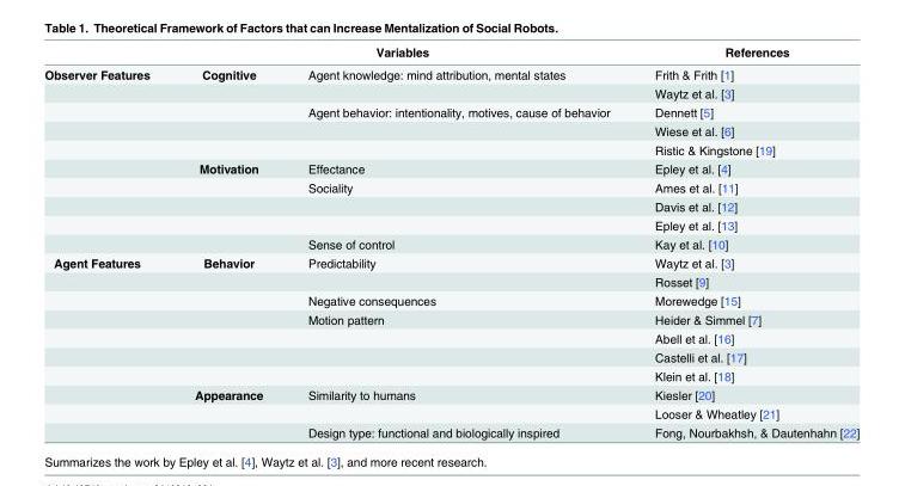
<table><thead><tr><td rowspan="2">Observer Features</td><td colspan="2">Variables</td><td rowspan="2">References Frith &amp; Frith [1]</td></tr><tr><td>Cognitive</td><td>Agent knowledge: mind attribution, mental states</td></tr></thead><tbody><tr><td></td><td></td><td></td><td>Waytz et al. [3]</td></tr><tr><td></td><td></td><td>Agent behavior: intentionality, motives, cause of behavior</td><td>Dennett [5]</td></tr><tr><td></td><td></td><td></td><td>Wiese et al. [6]</td></tr><tr><td></td><td></td><td></td><td>Ristic &amp; Kingstone [19]</td></tr><tr><td></td><td>Motivation</td><td>Effectance</td><td>Epley et al. [4]</td></tr><tr><td></td><td></td><td>Sociality</td><td>Ames et al. [11]</td></tr><tr><td></td><td></td><td></td><td>Davis et al. [12]</td></tr><tr><td></td><td></td><td></td><td>Epley et al. [13]</td></tr><tr><td></td><td></td><td>Sense of control</td><td>Kay et al. [10]</td></tr><tr><td rowspan="10">Agent Features</td><td>Behavior</td><td>Predictability</td><td>Waytz et al. [3]</td></tr><tr><td></td><td></td><td>Rosset [9]</td></tr><tr><td></td><td>Negative consequences</td><td>Morewedge [15]</td></tr><tr><td></td><td>Motion pattern</td><td>Heider &amp; Simmel [7]</td></tr><tr><td></td><td></td><td>Abell et al. [16]</td></tr><tr><td></td><td></td><td>Castelli et al. [17]</td></tr><tr><td></td><td></td><td>Klein et al. [18]</td></tr><tr><td>Appearance</td><td>Similarity to humans</td><td>Kiesler [20]</td></tr><tr><td></td><td></td><td>Looser &amp; Wheatley [21]</td></tr><tr><td></td><td>Design type: functional and biologically inspired</td><td>Fong, Nourbakhsh, &amp; Dautenhahn [22]</td></tr></tbody></table>